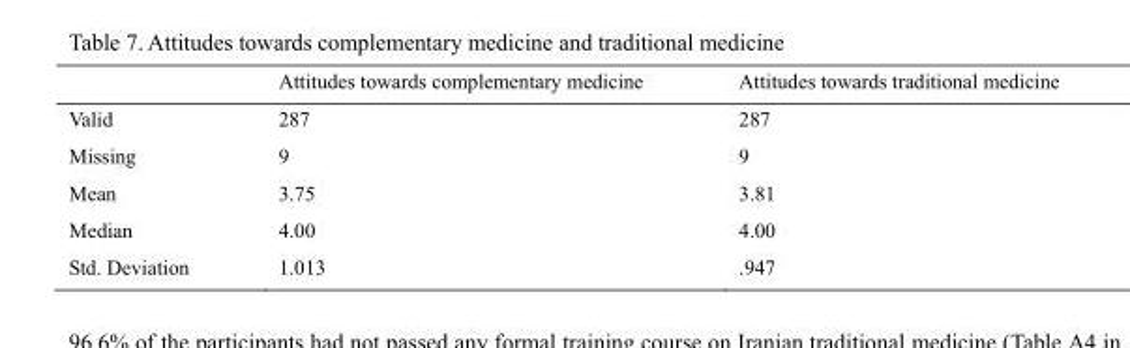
<table><thead><tr><td></td><td>Attitudes towards complementary medicine</td><td>Attitudes towards traditional medicine</td></tr></thead><tbody><tr><td>Valid</td><td>287</td><td>287</td></tr><tr><td>Missing</td><td>9</td><td>9</td></tr><tr><td>Mean</td><td>3.75</td><td>3.81</td></tr><tr><td>Median</td><td>4.00</td><td>4.00</td></tr><tr><td>Std. Deviation</td><td>1.013</td><td>.947</td></tr></tbody></table>